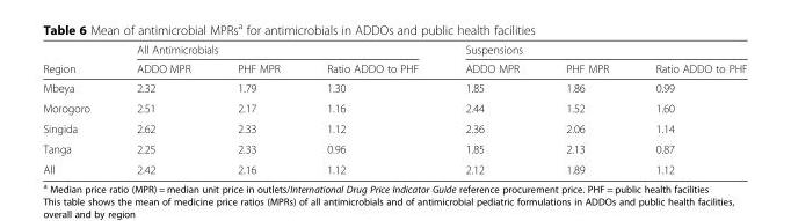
<table><thead><tr><td rowspan="2">Region</td><td colspan="3">All Antimicrobials</td><td colspan="3">Suspensions</td></tr><tr><td>ADDO MPR</td><td>PHF MPR</td><td>Ratio ADDO to PHF</td><td>ADDO MPR</td><td>PHF MPR</td><td>Ratio ADDO to PHF</td></tr></thead><tbody><tr><td>Mbeya</td><td>2.32</td><td>1.79</td><td>1.30</td><td>1.85</td><td>1.86</td><td>0.99</td></tr><tr><td>Morogoro</td><td>2.51</td><td>2.17</td><td>1.16</td><td>2.44</td><td>1.52</td><td>1.60</td></tr><tr><td>Singida</td><td>2.62</td><td>2.33</td><td>1.12</td><td>2.36</td><td>2.06</td><td>1.14</td></tr><tr><td>Tanga</td><td>2.25</td><td>2.33</td><td>0.96</td><td>1.85</td><td>2.13</td><td>0.87</td></tr><tr><td>All</td><td>2.42</td><td>2.16</td><td>1.12</td><td>2.12</td><td>1.89</td><td>1.12</td></tr></tbody></table>